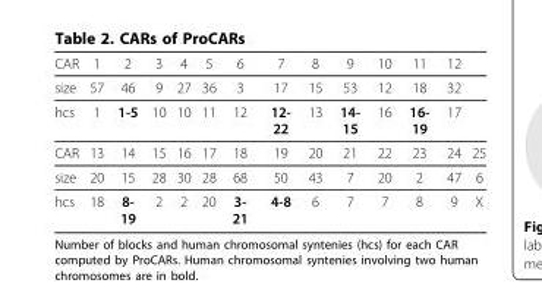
<table><thead><tr><td>CAR</td><td>1</td><td>2</td><td>3</td><td>4</td><td>5</td><td>6</td><td>7</td><td>8</td><td>9</td><td>10</td><td>11</td><td>12</td><td></td></tr></thead><tbody><tr><td>size</td><td>57</td><td>46</td><td>9</td><td>27</td><td>36</td><td>3</td><td>17</td><td>15</td><td>53</td><td>12</td><td>18</td><td>32</td><td></td></tr><tr><td>hcs</td><td>1</td><td>1-5</td><td>10</td><td>10</td><td>11</td><td>12</td><td>12- 22</td><td>13</td><td>14- 15</td><td>16</td><td>16- 19</td><td>17</td><td></td></tr><tr><td>CAR</td><td>13</td><td>14</td><td>15</td><td>16</td><td>17</td><td>18</td><td>19</td><td>20</td><td>21</td><td>22</td><td>23</td><td>24</td><td>25</td></tr><tr><td>size</td><td>20</td><td>15</td><td>28</td><td>30</td><td>28</td><td>68</td><td>50</td><td>43</td><td>7</td><td>20</td><td>2</td><td>47</td><td>6</td></tr><tr><td>hcs</td><td>18</td><td>8- 19</td><td>2</td><td>2</td><td>20</td><td>3- 21</td><td>4-8</td><td>6</td><td>7</td><td>7</td><td>8</td><td>9</td><td>X</td></tr></tbody></table>